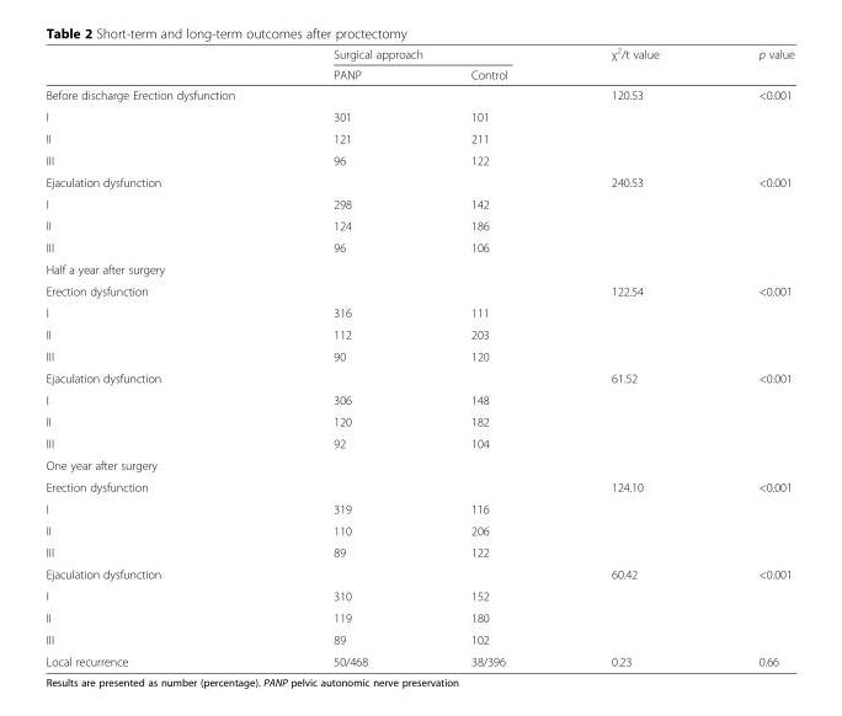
<table><thead><tr><td rowspan="2"></td><td colspan="2">Surgical approach</td><td rowspan="2">χ<sup>2</sup>/t value</td><td rowspan="2">p value</td></tr><tr><td>PANP</td><td>Control</td></tr></thead><tbody><tr><td>Before discharge Erection dysfunction</td><td></td><td></td><td>120.53</td><td>&lt;0.001</td></tr><tr><td>I</td><td>301</td><td>101</td><td></td><td></td></tr><tr><td>II</td><td>121</td><td>211</td><td></td><td></td></tr><tr><td>III</td><td>96</td><td>122</td><td></td><td></td></tr><tr><td>Ejaculation dysfunction</td><td></td><td></td><td>240.53</td><td>&lt;0.001</td></tr><tr><td>I</td><td>298</td><td>142</td><td></td><td></td></tr><tr><td>II</td><td>124</td><td>186</td><td></td><td></td></tr><tr><td>III</td><td>96</td><td>106</td><td></td><td></td></tr><tr><td colspan="5">Half a year after surgery</td></tr><tr><td>Erection dysfunction</td><td></td><td></td><td>122.54</td><td>&lt;0.001</td></tr><tr><td>I</td><td>316</td><td>111</td><td></td><td></td></tr><tr><td>II</td><td>112</td><td>203</td><td></td><td></td></tr><tr><td>III</td><td>90</td><td>120</td><td></td><td></td></tr><tr><td>Ejaculation dysfunction</td><td></td><td></td><td>61.52</td><td>&lt;0.001</td></tr><tr><td>I</td><td>306</td><td>148</td><td></td><td></td></tr><tr><td>II</td><td>120</td><td>182</td><td></td><td></td></tr><tr><td>III</td><td>92</td><td>104</td><td></td><td></td></tr><tr><td colspan="5">One year after surgery</td></tr><tr><td>Erection dysfunction</td><td></td><td></td><td>124.10</td><td>&lt;0.001</td></tr><tr><td>I</td><td>319</td><td>116</td><td></td><td></td></tr><tr><td>II</td><td>110</td><td>206</td><td></td><td></td></tr><tr><td>III</td><td>89</td><td>122</td><td></td><td></td></tr><tr><td>Ejaculation dysfunction</td><td></td><td></td><td>60.42</td><td>&lt;0.001</td></tr><tr><td>I</td><td>310</td><td>152</td><td></td><td></td></tr><tr><td>II</td><td>119</td><td>180</td><td></td><td></td></tr><tr><td>III</td><td>89</td><td>102</td><td></td><td></td></tr><tr><td>Local recurrence</td><td>50/468</td><td>38/396</td><td>0.23</td><td>0.66</td></tr></tbody></table>